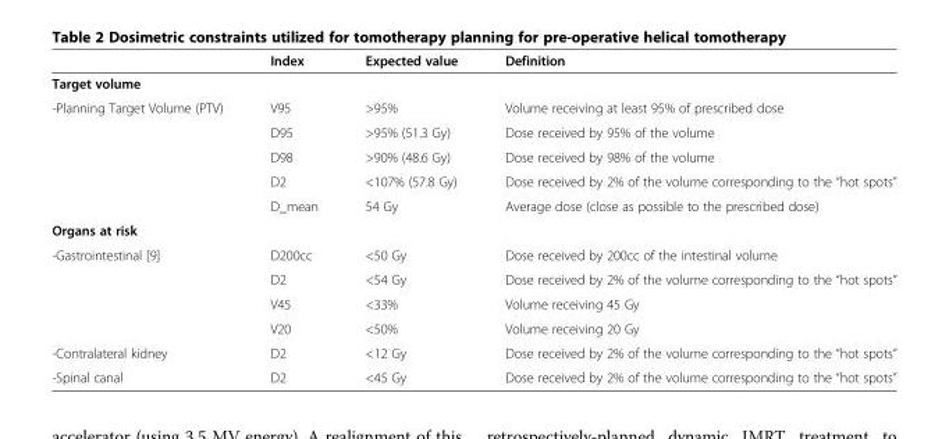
<table><thead><tr><td></td><td>Index</td><td>Expected value</td><td>Definition</td></tr></thead><tbody><tr><td colspan="4">Target volume</td></tr><tr><td rowspan="5">-Planning Target Volume (PTV)</td><td>V95</td><td>&gt;95%</td><td>Volume receiving at least 95% of prescribed dose</td></tr><tr><td>D95</td><td>&gt;95% (51.3 Gy)</td><td>Dose received by 95% of the volume</td></tr><tr><td>D98</td><td>&gt;90% (48.6 Gy)</td><td>Dose received by 98% of the volume</td></tr><tr><td>D2</td><td>&lt;107% (57.8 Gy)</td><td>Dose received by 2% of the volume corresponding to the “hot spots”</td></tr><tr><td>D_mean</td><td>54 Gy</td><td>Average dose (close as possible to the prescribed dose)</td></tr><tr><td colspan="4">Organs at risk</td></tr><tr><td rowspan="4">-Gastrointestinal [9]</td><td>D200cc</td><td>&lt;50 Gy</td><td>Dose received by 200cc of the intestinal volume</td></tr><tr><td>D2</td><td>&lt;54 Gy</td><td>Dose received by 2% of the volume corresponding to the “hot spots”</td></tr><tr><td>V45</td><td>&lt;33%</td><td>Volume receiving 45 Gy</td></tr><tr><td>V20</td><td>&lt;50%</td><td>Volume receiving 20 Gy</td></tr><tr><td>-Contralateral kidney</td><td>D2</td><td>&lt;12 Gy</td><td>Dose received by 2% of the volume corresponding to the “hot spots”</td></tr><tr><td>-Spinal canal</td><td>D2</td><td>&lt;45 Gy</td><td>Dose received by 2% of the volume corresponding to the “hot spots”</td></tr></tbody></table>